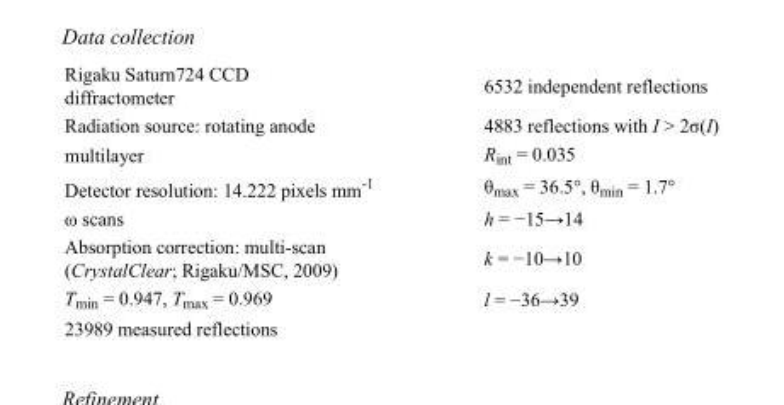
<table><tbody><tr><td>Rigaku Saturn724 CCD diffractometer</td><td>6532 independent reflections</td></tr><tr><td>Radiation source: rotating anode</td><td>4883 reflections with I &gt; 2σ(I)</td></tr><tr><td>multilayer</td><td>R<sub>int</sub> = 0.035</td></tr><tr><td>Detector resolution: 14.222 pixels mm<sup>-1</sup></td><td>θ<sub>max</sub> = 36.5°, θ<sub>min</sub> = 1.7°</td></tr><tr><td>ω scans</td><td>h = −15→14</td></tr><tr><td>Absorption correction: multi-scan (CrystalClear; Rigaku/MSC, 2009)</td><td>k = −10→10</td></tr><tr><td>T<sub>min</sub> = 0.947, T<sub>max</sub> = 0.969</td><td>l = −36→39</td></tr><tr><td>23989 measured reflections</td><td></td></tr></tbody></table>